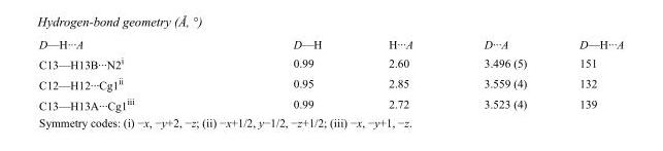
<table><tbody><tr><td>D—H···A</td><td>D—H</td><td>H···A</td><td>D···A</td><td>D—H···A</td></tr><tr><td>C13—H13B···N2<sup>i</sup></td><td>0.99</td><td>2.60</td><td>3.496 (5)</td><td>151</td></tr><tr><td>C12—H12···Cg1<sup>ii</sup></td><td>0.95</td><td>2.85</td><td>3.559 (4)</td><td>132</td></tr><tr><td>C13—H13A···Cg1<sup>iii</sup></td><td>0.99</td><td>2.72</td><td>3.523 (4)</td><td>139</td></tr></tbody></table>